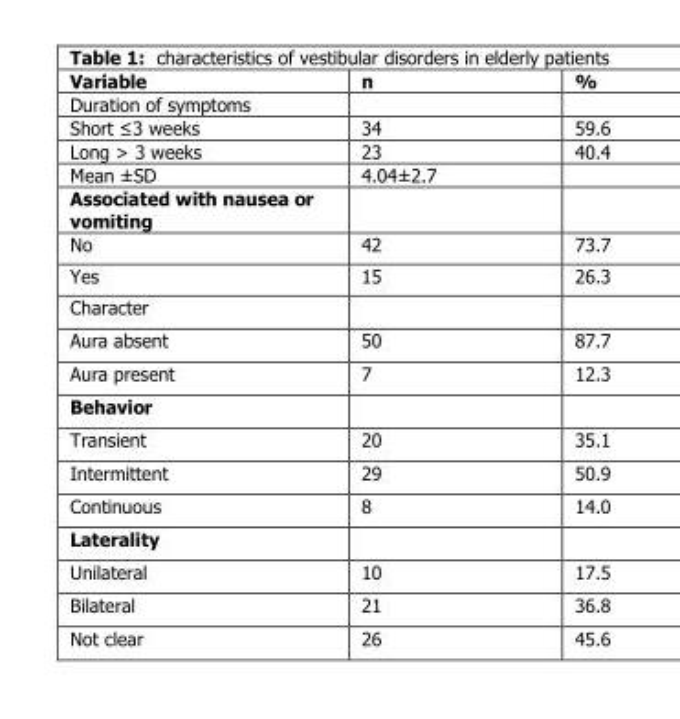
<table><thead><tr><td>Variable</td><td>n</td><td>%</td></tr></thead><tbody><tr><td colspan="3">Duration of symptoms</td></tr><tr><td>Short ≤3 weeks</td><td>34</td><td>59.6</td></tr><tr><td>Long &gt; 3 weeks</td><td>23</td><td>40.4</td></tr><tr><td>Mean ±SD</td><td>4.04±2.7</td><td></td></tr><tr><td colspan="3">Associated with nausea or vomiting</td></tr><tr><td>No</td><td>42</td><td>73.7</td></tr><tr><td>Yes</td><td>15</td><td>26.3</td></tr><tr><td colspan="3">Character</td></tr><tr><td>Aura absent</td><td>50</td><td>87.7</td></tr><tr><td>Aura present</td><td>7</td><td>12.3</td></tr><tr><td colspan="3">Behavior</td></tr><tr><td>Transient</td><td>20</td><td>35.1</td></tr><tr><td>Intermittent</td><td>29</td><td>50.9</td></tr><tr><td>Continuous</td><td>8</td><td>14.0</td></tr><tr><td colspan="3">Laterality</td></tr><tr><td>Unilateral</td><td>10</td><td>17.5</td></tr><tr><td>Bilateral</td><td>21</td><td>36.8</td></tr><tr><td>Not clear</td><td>26</td><td>45.6</td></tr></tbody></table>